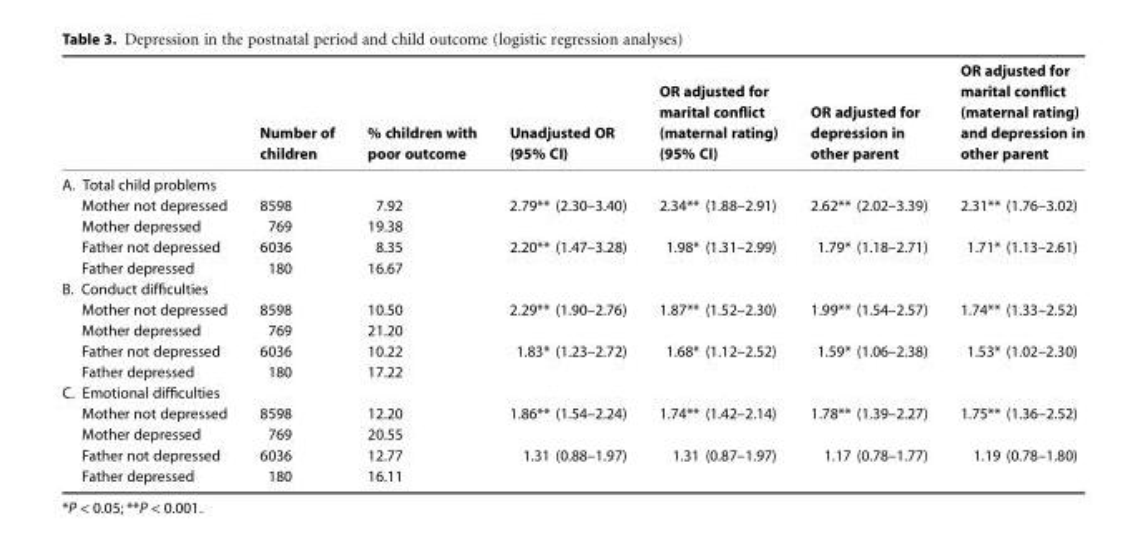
<table><thead><tr><td></td><td>Number of children</td><td>% children with poor outcome</td><td>Unadjusted OR (95% CI)</td><td>OR adjusted for marital conflict (maternal rating) (95% CI)</td><td>OR adjusted for depression in other parent</td><td>OR adjusted for marital conflict (maternal rating) and depression in other parent</td></tr></thead><tbody><tr><td colspan="7">A. Total child problems</td></tr><tr><td>Mother not depressed</td><td>8598</td><td>7.92</td><td rowspan="2">2.79** (2.30–3.40)</td><td rowspan="2">2.34** (1.88–2.91)</td><td rowspan="2">2.62** (2.02–3.39)</td><td rowspan="2">2.31** (1.76–3.02)</td></tr><tr><td>Mother depressed</td><td>769</td><td>19.38</td></tr><tr><td>Father not depressed</td><td>6036</td><td>8.35</td><td rowspan="2">2.20** (1.47–3.28)</td><td rowspan="2">1.98* (1.31–2.99)</td><td rowspan="2">1.79* (1.18–2.71)</td><td rowspan="2">1.71* (1.13–2.61)</td></tr><tr><td>Father depressed</td><td>180</td><td>16.67</td></tr><tr><td colspan="7">B. Conduct difficulties</td></tr><tr><td>Mother not depressed</td><td>8598</td><td>10.50</td><td rowspan="2">2.29** (1.90–2.76)</td><td rowspan="2">1.87** (1.52–2.30)</td><td rowspan="2">1.99** (1.54–2.57)</td><td rowspan="2">1.74** (1.33–2.52)</td></tr><tr><td>Mother depressed</td><td>769</td><td>21.20</td></tr><tr><td>Father not depressed</td><td>6036</td><td>10.22</td><td rowspan="2">1.83* (1.23–2.72)</td><td rowspan="2">1.68* (1.12–2.52)</td><td rowspan="2">1.59* (1.06–2.38)</td><td rowspan="2">1.53* (1.02–2.30)</td></tr><tr><td>Father depressed</td><td>180</td><td>17.22</td></tr><tr><td colspan="7">C. Emotional difficulties</td></tr><tr><td>Mother not depressed</td><td>8598</td><td>12.20</td><td rowspan="2">1.86** (1.54–2.24)</td><td rowspan="2">1.74** (1.42–2.14)</td><td rowspan="2">1.78** (1.39–2.27)</td><td rowspan="2">1.75** (1.36–2.52)</td></tr><tr><td>Mother depressed</td><td>769</td><td>20.55</td></tr><tr><td>Father not depressed</td><td>6036</td><td>12.77</td><td rowspan="2">1.31 (0.88–1.97)</td><td rowspan="2">1.31 (0.87–1.97)</td><td rowspan="2">1.17 (0.78–1.77)</td><td rowspan="2">1.19 (0.78–1.80)</td></tr><tr><td>Father depressed</td><td>180</td><td>16.11</td></tr></tbody></table>